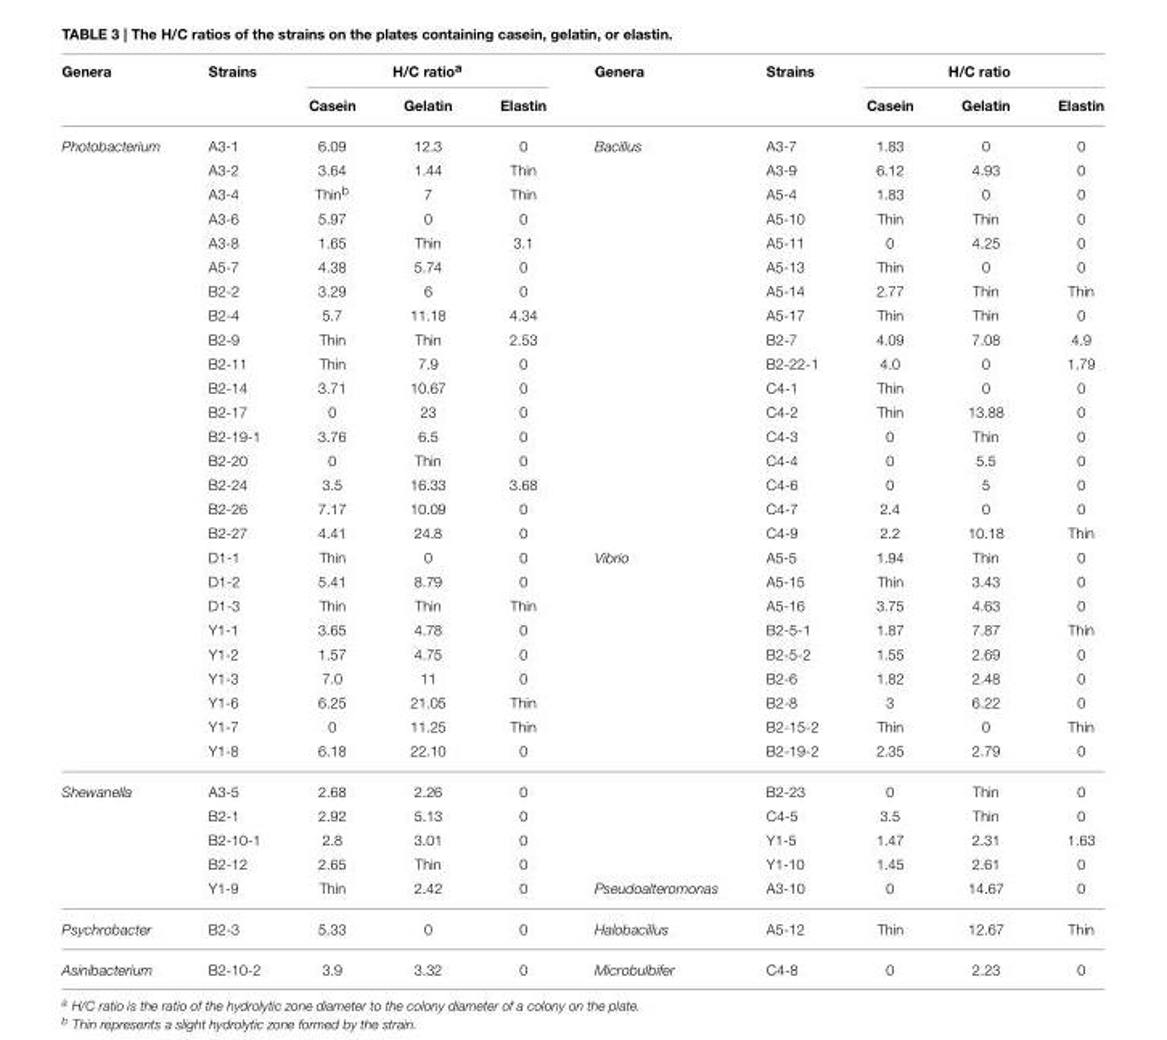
<table><thead><tr><td rowspan="2">Genera</td><td rowspan="2">Strains</td><td colspan="3">H/C ratio<sup>a</sup></td><td rowspan="2">Genera</td><td rowspan="2">Strains</td><td colspan="3">H/C ratio</td></tr><tr><td>Casein</td><td>Gelatin</td><td>Elastin</td><td>Casein</td><td>Gelatin</td><td>Elastin</td></tr></thead><tbody><tr><td rowspan="26">Photobacterium</td><td>A3-1</td><td>6.09</td><td>12.3</td><td>0</td><td>Bacillus</td><td>A3-7</td><td>1.83</td><td>0</td><td>0</td></tr><tr><td>A3-2</td><td>3.64</td><td>1.44</td><td>Thin</td><td></td><td>A3-9</td><td>6.12</td><td>4.93</td><td>0</td></tr><tr><td>A3-4</td><td>Thin<sup>b</sup></td><td>7</td><td>Thin</td><td></td><td>A5-4</td><td>1.83</td><td>0</td><td>0</td></tr><tr><td>A3-6</td><td>5.97</td><td>0</td><td>0</td><td></td><td>A5-10</td><td>Thin</td><td>Thin</td><td>0</td></tr><tr><td>A3-8</td><td>1.65</td><td>Thin</td><td>3.1</td><td></td><td>A5-11</td><td>0</td><td>4.25</td><td>0</td></tr><tr><td>A5-7</td><td>4.38</td><td>5.74</td><td>0</td><td></td><td>A5-13</td><td>Thin</td><td>0</td><td>0</td></tr><tr><td>B2-2</td><td>3.29</td><td>6</td><td>0</td><td></td><td>A5-14</td><td>2.77</td><td>Thin</td><td>Thin</td></tr><tr><td>B2-4</td><td>5.7</td><td>11.18</td><td>4.34</td><td></td><td>A5-17</td><td>Thin</td><td>Thin</td><td>0</td></tr><tr><td>B2-9</td><td>Thin</td><td>Thin</td><td>2.53</td><td></td><td>B2-7</td><td>4.09</td><td>7.08</td><td>4.9</td></tr><tr><td>B2-11</td><td>Thin</td><td>7.9</td><td>0</td><td></td><td>B2-22-1</td><td>4.0</td><td>0</td><td>1.79</td></tr><tr><td>B2-14</td><td>3.71</td><td>10.67</td><td>0</td><td></td><td>C4-1</td><td>Thin</td><td>0</td><td>0</td></tr><tr><td>B2-17</td><td>0</td><td>23</td><td>0</td><td></td><td>C4-2</td><td>Thin</td><td>13.88</td><td>0</td></tr><tr><td>B2-19-1</td><td>3.76</td><td>6.5</td><td>0</td><td></td><td>C4-3</td><td>0</td><td>Thin</td><td>0</td></tr><tr><td>B2-20</td><td>0</td><td>Thin</td><td>0</td><td></td><td>C4-4</td><td>0</td><td>5.5</td><td>0</td></tr><tr><td>B2-24</td><td>3.5</td><td>16.33</td><td>3.68</td><td></td><td>C4-6</td><td>0</td><td>5</td><td>0</td></tr><tr><td>B2-26</td><td>7.17</td><td>10.09</td><td>0</td><td></td><td>C4-7</td><td>2.4</td><td>0</td><td>0</td></tr><tr><td>B2-27</td><td>4.41</td><td>24.8</td><td>0</td><td></td><td>C4-9</td><td>2.2</td><td>10.18</td><td>Thin</td></tr><tr><td>D1-1</td><td>Thin</td><td>0</td><td>0</td><td>Vibrio</td><td>A5-5</td><td>1.94</td><td>Thin</td><td>0</td></tr><tr><td>D1-2</td><td>5.41</td><td>8.79</td><td>0</td><td></td><td>A5-15</td><td>Thin</td><td>3.43</td><td>0</td></tr><tr><td>D1-3</td><td>Thin</td><td>Thin</td><td>Thin</td><td></td><td>A5-16</td><td>3.75</td><td>4.63</td><td>0</td></tr><tr><td>Y1-1</td><td>3.65</td><td>4.78</td><td>0</td><td></td><td>B2-5-1</td><td>1.87</td><td>7.87</td><td>Thin</td></tr><tr><td>Y1-2</td><td>1.57</td><td>4.75</td><td>0</td><td></td><td>B2-5-2</td><td>1.55</td><td>2.69</td><td>0</td></tr><tr><td>Y1-3</td><td>7.0</td><td>11</td><td>0</td><td></td><td>B2-6</td><td>1.82</td><td>2.48</td><td>0</td></tr><tr><td>Y1-6</td><td>6.25</td><td>21.05</td><td>Thin</td><td></td><td>B2-8</td><td>3</td><td>6.22</td><td>0</td></tr><tr><td>Y1-7</td><td>0</td><td>11.25</td><td>Thin</td><td></td><td>B2-15-2</td><td>Thin</td><td>0</td><td>Thin</td></tr><tr><td>Y1-8</td><td>6.18</td><td>22.10</td><td>0</td><td></td><td>B2-19-2</td><td>2.35</td><td>2.79</td><td>0</td></tr><tr><td rowspan="5">Shewanella</td><td>A3-5</td><td>2.68</td><td>2.26</td><td>0</td><td></td><td>B2-23</td><td>0</td><td>Thin</td><td>0</td></tr><tr><td>B2-1</td><td>2.92</td><td>5.13</td><td>0</td><td></td><td>C4-5</td><td>3.5</td><td>Thin</td><td>0</td></tr><tr><td>B2-10-1</td><td>2.8</td><td>3.01</td><td>0</td><td></td><td>Y1-5</td><td>1.47</td><td>2.31</td><td>1.63</td></tr><tr><td>B2-12</td><td>2.65</td><td>Thin</td><td>0</td><td></td><td>Y1-10</td><td>1.45</td><td>2.61</td><td>0</td></tr><tr><td>Y1-9</td><td>Thin</td><td>2.42</td><td>0</td><td>Pseudoalteromonas</td><td>A3-10</td><td>0</td><td>14.67</td><td>0</td></tr><tr><td>Psychrobacter</td><td>B2-3</td><td>5.33</td><td>0</td><td>0</td><td>Halobacillus</td><td>A5-12</td><td>Thin</td><td>12.67</td><td>Thin</td></tr><tr><td>Asinibacterium</td><td>B2-10-2</td><td>3.9</td><td>3.32</td><td>0</td><td>Microbulbifer</td><td>C4-8</td><td>0</td><td>2.23</td><td>0</td></tr></tbody></table>